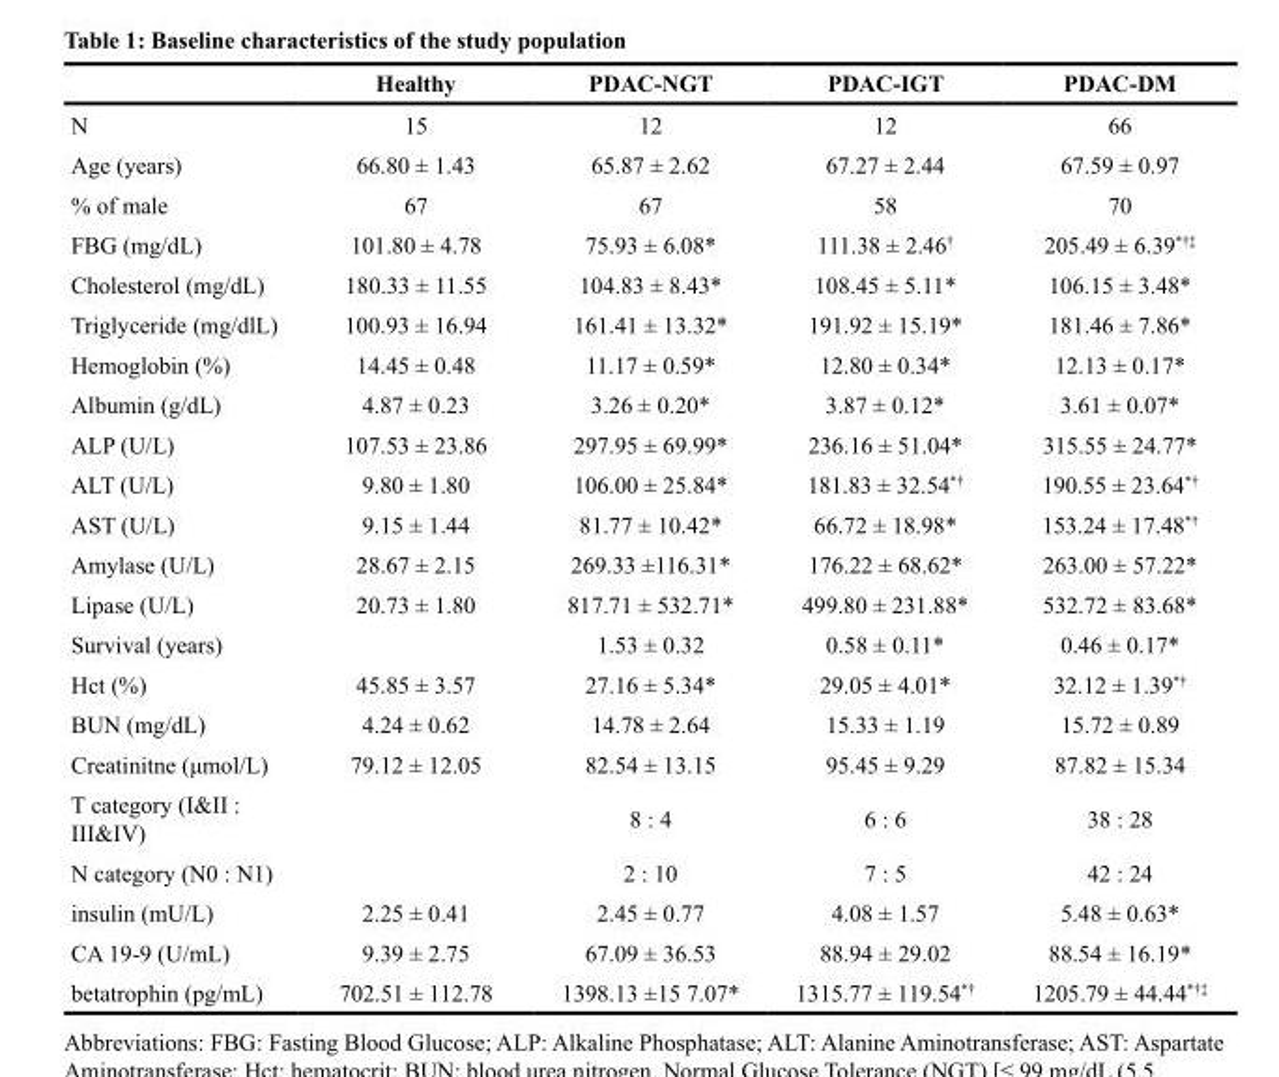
<table><thead><tr><td></td><td>Healthy</td><td>PDAC-NGT</td><td>PDAC-IGT</td><td>PDAC-DM</td></tr></thead><tbody><tr><td>N</td><td>15</td><td>12</td><td>12</td><td>66</td></tr><tr><td>Age (years)</td><td>66.80 ± 1.43</td><td>65.87 ± 2.62</td><td>67.27 ± 2.44</td><td>67.59 ± 0.97</td></tr><tr><td>% of male</td><td>67</td><td>67</td><td>58</td><td>70</td></tr><tr><td>FBG (mg/dL)</td><td>101.80 ± 4.78</td><td>75.93 ± 6.08*</td><td>111.38 ± 2.46<sup>†</sup></td><td>205.49 ± 6.39*†‡</td></tr><tr><td>Cholesterol (mg/dL)</td><td>180.33 ± 11.55</td><td>104.83 ± 8.43*</td><td>108.45 ± 5.11*</td><td>106.15 ± 3.48*</td></tr><tr><td>Triglyceride (mg/dlL)</td><td>100.93 ± 16.94</td><td>161.41 ± 13.32*</td><td>191.92 ± 15.19*</td><td>181.46 ± 7.86*</td></tr><tr><td>Hemoglobin (%)</td><td>14.45 ± 0.48</td><td>11.17 ± 0.59*</td><td>12.80 ± 0.34*</td><td>12.13 ± 0.17*</td></tr><tr><td>Albumin (g/dL)</td><td>4.87 ± 0.23</td><td>3.26 ± 0.20*</td><td>3.87 ± 0.12*</td><td>3.61 ± 0.07*</td></tr><tr><td>ALP (U/L)</td><td>107.53 ± 23.86</td><td>297.95 ± 69.99*</td><td>236.16 ± 51.04*</td><td>315.55 ± 24.77*</td></tr><tr><td>ALT (U/L)</td><td>9.80 ± 1.80</td><td>106.00 ± 25.84*</td><td>181.83 ± 32.54<sup>*†</sup></td><td>190.55 ± 23.64<sup>*†</sup></td></tr><tr><td>AST (U/L)</td><td>9.15 ± 1.44</td><td>81.77 ± 10.42*</td><td>66.72 ± 18.98*</td><td>153.24 ± 17.48<sup>*†</sup></td></tr><tr><td>Amylase (U/L)</td><td>28.67 ± 2.15</td><td>269.33 ±116.31*</td><td>176.22 ± 68.62*</td><td>263.00 ± 57.22*</td></tr><tr><td>Lipase (U/L)</td><td>20.73 ± 1.80</td><td>817.71 ± 532.71*</td><td>499.80 ± 231.88*</td><td>532.72 ± 83.68*</td></tr><tr><td>Survival (years)</td><td></td><td>1.53 ± 0.32</td><td>0.58 ± 0.11*</td><td>0.46 ± 0.17*</td></tr><tr><td>Hct (%)</td><td>45.85 ± 3.57</td><td>27.16 ± 5.34*</td><td>29.05 ± 4.01*</td><td>32.12 ± 1.39<sup>*†</sup></td></tr><tr><td>BUN (mg/dL)</td><td>4.24 ± 0.62</td><td>14.78 ± 2.64</td><td>15.33 ± 1.19</td><td>15.72 ± 0.89</td></tr><tr><td>Creatinitne (μmol/L)</td><td>79.12 ± 12.05</td><td>82.54 ± 13.15</td><td>95.45 ± 9.29</td><td>87.82 ± 15.34</td></tr><tr><td>T category (I&amp;II : III&amp;IV)</td><td></td><td>8 : 4</td><td>6 : 6</td><td>38 : 28</td></tr><tr><td>N category (N0 : N1)</td><td></td><td>2 : 10</td><td>7 : 5</td><td>42 : 24</td></tr><tr><td>insulin (mU/L)</td><td>2.25 ± 0.41</td><td>2.45 ± 0.77</td><td>4.08 ± 1.57</td><td>5.48 ± 0.63*</td></tr><tr><td>CA 19-9 (U/mL)</td><td>9.39 ± 2.75</td><td>67.09 ± 36.53</td><td>88.94 ± 29.02</td><td>88.54 ± 16.19*</td></tr><tr><td>betatrophin (pg/mL)</td><td>702.51 ± 112.78</td><td>1398.13 ±15 7.07*</td><td>1315.77 ± 119.54<sup>*†</sup></td><td>1205.79 ± 44.44<sup>*†‡</sup></td></tr></tbody></table>